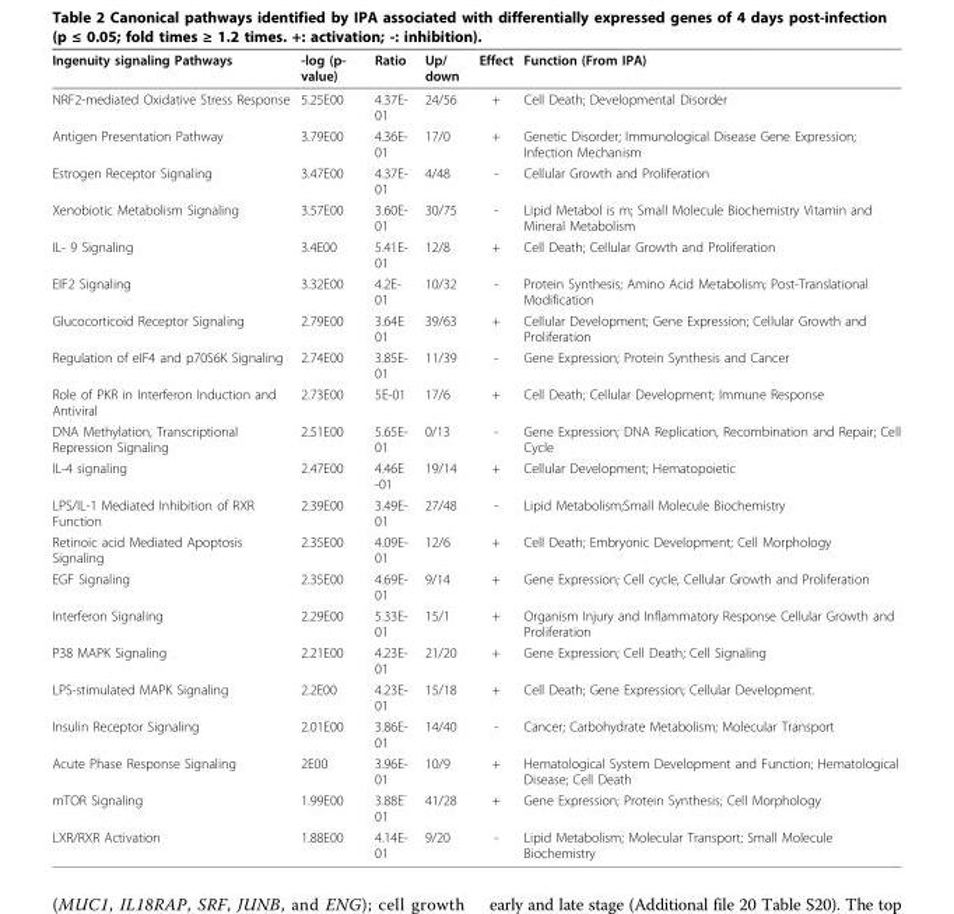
<table><thead><tr><td>Ingenuity signaling Pathways</td><td>-log (p- value)</td><td>Ratio</td><td>Up/ down</td><td>Effect</td><td>Function (From IPA)</td></tr></thead><tbody><tr><td>NRF2-mediated Oxidative Stress Response</td><td>5.25E00</td><td>4.37E- 01</td><td>24/56</td><td>+</td><td>Cell Death; Developmental Disorder</td></tr><tr><td>Antigen Presentation Pathway</td><td>3.79E00</td><td>4.36E- 01</td><td>17/0</td><td>+</td><td>Genetic Disorder; Immunological Disease Gene Expression; Infection Mechanism</td></tr><tr><td>Estrogen Receptor Signaling</td><td>3.47E00</td><td>4.37E- 01</td><td>4/48</td><td>-</td><td>Cellular Growth and Proliferation</td></tr><tr><td>Xenobiotic Metabolism Signaling</td><td>3.57E00</td><td>3.60E- 01</td><td>30/75</td><td>-</td><td>Lipid Metabol is m; Small Molecule Biochemistry Vitamin and Mineral Metabolism</td></tr><tr><td>IL- 9 Signaling</td><td>3.4E00</td><td>5.41E- 01</td><td>12/8</td><td>+</td><td>Cell Death; Cellular Growth and Proliferation</td></tr><tr><td>EIF2 Signaling</td><td>3.32E00</td><td>4.2E- 01</td><td>10/32</td><td>-</td><td>Protein Synthesis; Amino Acid Metabolism; Post-Translational Modification</td></tr><tr><td>Glucocorticoid Receptor Signaling</td><td>2.79E00</td><td>3.64E 01</td><td>39/63</td><td>+</td><td>Cellular Development; Gene Expression; Cellular Growth and Proliferation</td></tr><tr><td>Regulation of eIF4 and p70S6K Signaling</td><td>2.74E00</td><td>3.85E- 01</td><td>11/39</td><td>-</td><td>Gene Expression; Protein Synthesis and Cancer</td></tr><tr><td>Role of PKR in Interferon Induction and Antiviral</td><td>2.73E00</td><td>5E-01</td><td>17/6</td><td>+</td><td>Cell Death; Cellular Development; Immune Response</td></tr><tr><td>DNA Methylation, Transcriptional Repression Signaling</td><td>2.51E00</td><td>5.65E- 01</td><td>0/13</td><td>-</td><td>Gene Expression; DNA Replication, Recombination and Repair; Cell Cycle</td></tr><tr><td>IL-4 signaling</td><td>2.47E00</td><td>4.46E -01</td><td>19/14</td><td>+</td><td>Cellular Development; Hematopoietic</td></tr><tr><td>LPS/IL-1 Mediated Inhibition of RXR Function</td><td>2.39E00</td><td>3.49E- 01</td><td>27/48</td><td>-</td><td>Lipid Metabolism;Small Molecule Biochemistry</td></tr><tr><td>Retinoic acid Mediated Apoptosis Signaling</td><td>2.35E00</td><td>4.09E- 01</td><td>12/6</td><td>+</td><td>Cell Death; Embryonic Development; Cell Morphology</td></tr><tr><td>EGF Signaling</td><td>2.35E00</td><td>4.69E- 01</td><td>9/14</td><td>+</td><td>Gene Expression; Cell cycle, Cellular Growth and Proliferation</td></tr><tr><td>Interferon Signaling</td><td>2.29E00</td><td>5.33E- 01</td><td>15/1</td><td>+</td><td>Organism Injury and Inflammatory Response Cellular Growth and Proliferation</td></tr><tr><td>P38 MAPK Signaling</td><td>2.21E00</td><td>4.23E- 01</td><td>21/20</td><td>+</td><td>Gene Expression; Cell Death; Cell Signaling</td></tr><tr><td>LPS-stimulated MAPK Signaling</td><td>2.2E00</td><td>4.23E- 01</td><td>15/18</td><td>+</td><td>Cell Death; Gene Expression; Cellular Development.</td></tr><tr><td>Insulin Receptor Signaling</td><td>2.01E00</td><td>3.86E- 01</td><td>14/40</td><td>-</td><td>Cancer; Carbohydrate Metabolism; Molecular Transport</td></tr><tr><td>Acute Phase Response Signaling</td><td>2E00</td><td>3.96E- 01</td><td>10/9</td><td>+</td><td>Hematological System Development and Function; Hematological Disease; Cell Death</td></tr><tr><td>mTOR Signaling</td><td>1.99E00</td><td>3.88E<sup>-</sup> 01</td><td>41/28</td><td>+</td><td>Gene Expression; Protein Synthesis; Cell Morphology</td></tr><tr><td>LXR/RXR Activation</td><td>1.88E00</td><td>4.14E- 01</td><td>9/20</td><td>-</td><td>Lipid Metabolism; Molecular Transport; Small Molecule Biochemistry</td></tr></tbody></table>